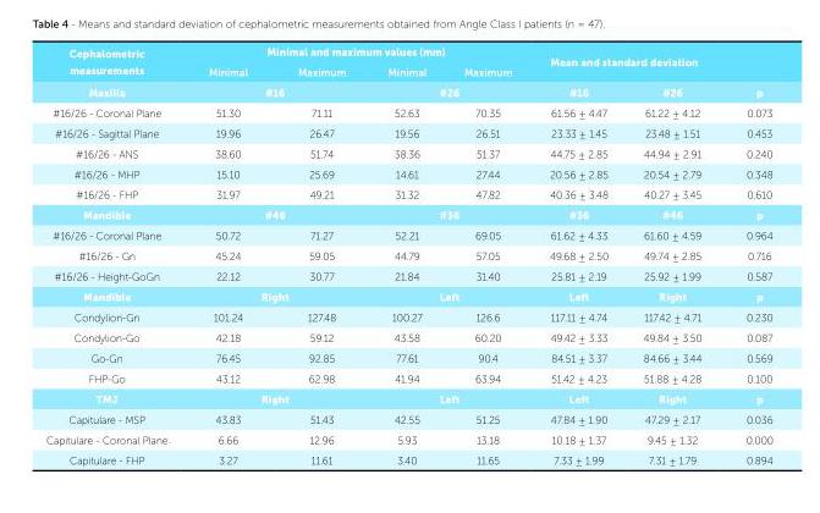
<table><thead><tr><td rowspan="3">Cephalometric measurements Maxilla</td><td colspan="4">Minimal and maximum values (mm)</td><td rowspan="2" colspan="2">Mean and standard deviation</td><td rowspan="3">p</td></tr><tr><td>Minimal</td><td>Maximum</td><td>Minimal</td><td>Maximum</td></tr><tr><td colspan="2">#16</td><td colspan="2">#26</td><td>#16</td><td>#26</td></tr></thead><tbody><tr><td>#16/26 - Coronal Plane</td><td>51.30</td><td>71.11</td><td>52.63</td><td>70.35</td><td>61.56 ± 4.47</td><td>61.22 ± 4.12</td><td>0.073</td></tr><tr><td>#16/26 - Sagittal Plane</td><td>19.96</td><td>26.47</td><td>19.56</td><td>26.51</td><td>23.33 ± 1.45</td><td>23.48 ± 1.51</td><td>0.453</td></tr><tr><td>#16/26 - ANS</td><td>38.60</td><td>51.74</td><td>38.36</td><td>51.37</td><td>44.75 ± 2.85</td><td>44.94 ± 2.91</td><td>0.240</td></tr><tr><td>#16/26 - MHP</td><td>15.10</td><td>25.69</td><td>14.61</td><td>27.44</td><td>20.56 ± 2.85</td><td>20.54 ± 2.79</td><td>0.348</td></tr><tr><td>#16/26 - FHP</td><td>31.97</td><td>49.21</td><td>31.32</td><td>47.82</td><td>40.36 ± 3.48</td><td>40.27 ± 3.45</td><td>0.610</td></tr><tr><td>Mandible</td><td colspan="2">#46</td><td colspan="2">#36</td><td>#36</td><td>#46</td><td>p</td></tr><tr><td>#16/26 - Coronal Plane</td><td>50.72</td><td>71.27</td><td>52.21</td><td>69.05</td><td>61.62 ± 4.33</td><td>61.60 ± 4.59</td><td>0.964</td></tr><tr><td>#16/26 - Gn</td><td>45.24</td><td>59.05</td><td>44.79</td><td>57.05</td><td>49.68 ± 2.50</td><td>49.74 ± 2.85</td><td>0.716</td></tr><tr><td>#16/26 - Height-GoGn</td><td>22.12</td><td>30.77</td><td>21.84</td><td>31.40</td><td>25.81 ± 2.19</td><td>25.92 ± 1.99</td><td>0.587</td></tr><tr><td>Mandible</td><td colspan="2">Right</td><td colspan="2">Left</td><td>Left</td><td>Right</td><td>p</td></tr><tr><td>Condylion-Gn</td><td>101.24</td><td>127.48</td><td>100.27</td><td>126.6</td><td>117.11 ± 4.74</td><td>117.42 ± 4.71</td><td>0.230</td></tr><tr><td>Condylion-Go</td><td>42.18</td><td>59.12</td><td>43.58</td><td>60.20</td><td>49.42 ± 3.33</td><td>49.84 ± 3.50</td><td>0.087</td></tr><tr><td>Go-Gn</td><td>76.45</td><td>92.85</td><td>77.61</td><td>90.4</td><td>84.51 ± 3.37</td><td>84.66 ± 3.44</td><td>0.569</td></tr><tr><td>FHP-Go</td><td>43.12</td><td>62.98</td><td>41.94</td><td>63.94</td><td>51.42 ± 4.23</td><td>51.88 ± 4.28</td><td>0.100</td></tr><tr><td>TMJ</td><td colspan="2">Right</td><td colspan="2">Left</td><td>Left</td><td>Right</td><td>p</td></tr><tr><td>Capitulare - MSP</td><td>43.83</td><td>51.43</td><td>42.55</td><td>51.25</td><td>47.84 ± 1.90</td><td>47.29 ± 2.17</td><td>0.036</td></tr><tr><td>Capitulare - Coronal Plane</td><td>6.66</td><td>12.96</td><td>5.93</td><td>13.18</td><td>10.18 ± 1.37</td><td>9.45 ± 1.32</td><td>0.000</td></tr><tr><td>Capitulare - FHP</td><td>3.27</td><td>11.61</td><td>3.40</td><td>11.65</td><td>7.33 ± 1.99</td><td>7.31 ± 1.79</td><td>0.894</td></tr></tbody></table>